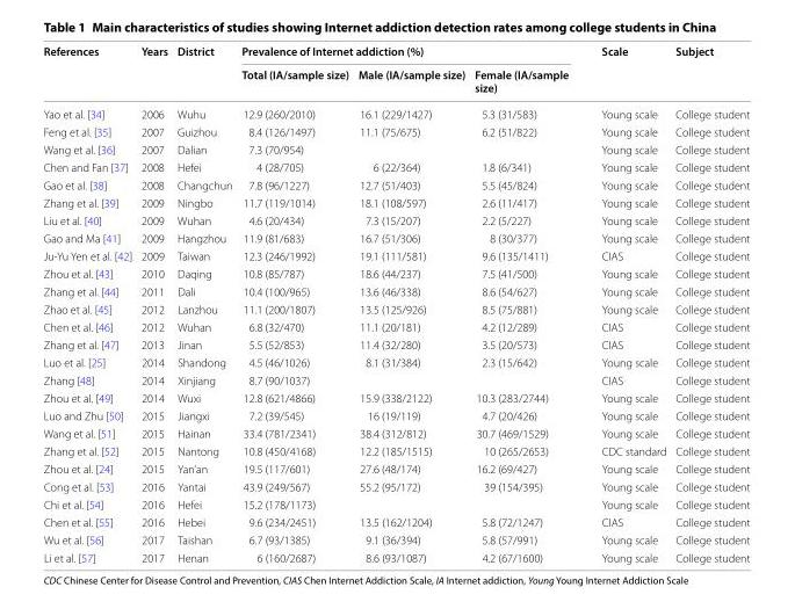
<table><thead><tr><td rowspan="2">References</td><td rowspan="2">Years</td><td rowspan="2">District</td><td colspan="3">Prevalence of Internet addiction (%)</td><td rowspan="2">Scale</td><td rowspan="2">Subject</td></tr><tr><td>Total (IA/sample size)</td><td>Male (IA/sample size)</td><td>Female (IA/sample size)</td></tr></thead><tbody><tr><td>Yao et al. [34]</td><td>2006</td><td>Wuhu</td><td>12.9 (260/2010)</td><td>16.1 (229/1427)</td><td>5.3 (31/583)</td><td>Young scale</td><td>College student</td></tr><tr><td>Feng et al. [35]</td><td>2007</td><td>Guizhou</td><td>8.4 (126/1497)</td><td>11.1 (75/675)</td><td>6.2 (51/822)</td><td>Young scale</td><td>College student</td></tr><tr><td>Wang et al. [36]</td><td>2007</td><td>Dalian</td><td>7.3 (70/954)</td><td></td><td></td><td>Young scale</td><td>College student</td></tr><tr><td>Chen and Fan [37]</td><td>2008</td><td>Hefei</td><td>4 (28/705)</td><td>6 (22/364)</td><td>1.8 (6/341)</td><td>Young scale</td><td>College student</td></tr><tr><td>Gao et al. [38]</td><td>2008</td><td>Changchun</td><td>7.8 (96/1227)</td><td>12.7 (51/403)</td><td>5.5 (45/824)</td><td>Young scale</td><td>College student</td></tr><tr><td>Zhang et al. [39]</td><td>2009</td><td>Ningbo</td><td>11.7 (119/1014)</td><td>18.1 (108/597)</td><td>2.6 (11/417)</td><td>Young scale</td><td>College student</td></tr><tr><td>Liu et al. [40]</td><td>2009</td><td>Wuhan</td><td>4.6 (20/434)</td><td>7.3 (15/207)</td><td>2.2 (5/227)</td><td>Young scale</td><td>College student</td></tr><tr><td>Gao and Ma [41]</td><td>2009</td><td>Hangzhou</td><td>11.9 (81/683)</td><td>16.7 (51/306)</td><td>8 (30/377)</td><td>Young scale</td><td>College student</td></tr><tr><td>Ju‑Yu Yen et al. [42]</td><td>2009</td><td>Taiwan</td><td>12.3 (246/1992)</td><td>19.1 (111/581)</td><td>9.6 (135/1411)</td><td>CIAS</td><td>College student</td></tr><tr><td>Zhou et al. [43]</td><td>2010</td><td>Daqing</td><td>10.8 (85/787)</td><td>18.6 (44/237)</td><td>7.5 (41/500)</td><td>Young scale</td><td>College student</td></tr><tr><td>Zhang et al. [44]</td><td>2011</td><td>Dali</td><td>10.4 (100/965)</td><td>13.6 (46/338)</td><td>8.6 (54/627)</td><td>Young scale</td><td>College student</td></tr><tr><td>Zhao et al. [45]</td><td>2012</td><td>Lanzhou</td><td>11.1 (200/1807)</td><td>13.5 (125/926)</td><td>8.5 (75/881)</td><td>Young scale</td><td>College student</td></tr><tr><td>Chen et al. [46]</td><td>2012</td><td>Wuhan</td><td>6.8 (32/470)</td><td>11.1 (20/181)</td><td>4.2 (12/289)</td><td>CIAS</td><td>College student</td></tr><tr><td>Zhang et al. [47]</td><td>2013</td><td>Jinan</td><td>5.5 (52/853)</td><td>11.4 (32/280)</td><td>3.5 (20/573)</td><td>CIAS</td><td>College student</td></tr><tr><td>Luo et al. [25]</td><td>2014</td><td>Shandong</td><td>4.5 (46/1026)</td><td>8.1 (31/384)</td><td>2.3 (15/642)</td><td>Young scale</td><td>College student</td></tr><tr><td>Zhang [48]</td><td>2014</td><td>Xinjiang</td><td>8.7 (90/1037)</td><td></td><td></td><td>CIAS</td><td>College student</td></tr><tr><td>Zhou et al. [49]</td><td>2014</td><td>Wuxi</td><td>12.8 (621/4866)</td><td>15.9 (338/2122)</td><td>10.3 (283/2744)</td><td>Young scale</td><td>College student</td></tr><tr><td>Luo and Zhu [50]</td><td>2015</td><td>Jiangxi</td><td>7.2 (39/545)</td><td>16 (19/119)</td><td>4.7 (20/426)</td><td>Young scale</td><td>College student</td></tr><tr><td>Wang et al. [51]</td><td>2015</td><td>Hainan</td><td>33.4 (781/2341)</td><td>38.4 (312/812)</td><td>30.7 (469/1529)</td><td>Young scale</td><td>College student</td></tr><tr><td>Zhang et al. [52]</td><td>2015</td><td>Nantong</td><td>10.8 (450/4168)</td><td>12.2 (185/1515)</td><td>10 (265/2653)</td><td>CDC standard</td><td>College student</td></tr><tr><td>Zhou et al. [24]</td><td>2015</td><td>Yan’an</td><td>19.5 (117/601)</td><td>27.6 (48/174)</td><td>16.2 (69/427)</td><td>Young scale</td><td>College student</td></tr><tr><td>Cong et al. [53]</td><td>2016</td><td>Yantai</td><td>43.9 (249/567)</td><td>55.2 (95/172)</td><td>39 (154/395)</td><td>Young scale</td><td>College student</td></tr><tr><td>Chi et al. [54]</td><td>2016</td><td>Hefei</td><td>15.2 (178/1173)</td><td></td><td></td><td>Young scale</td><td>College student</td></tr><tr><td>Chen et al. [55]</td><td>2016</td><td>Hebei</td><td>9.6 (234/2451)</td><td>13.5 (162/1204)</td><td>5.8 (72/1247)</td><td>CIAS</td><td>College student</td></tr><tr><td>Wu et al. [56]</td><td>2017</td><td>Taishan</td><td>6.7 (93/1385)</td><td>9.1 (36/394)</td><td>5.8 (57/991)</td><td>Young scale</td><td>College student</td></tr><tr><td>Li et al. [57]</td><td>2017</td><td>Henan</td><td>6 (160/2687)</td><td>8.6 (93/1087)</td><td>4.2 (67/1600)</td><td>Young scale</td><td>College student</td></tr></tbody></table>